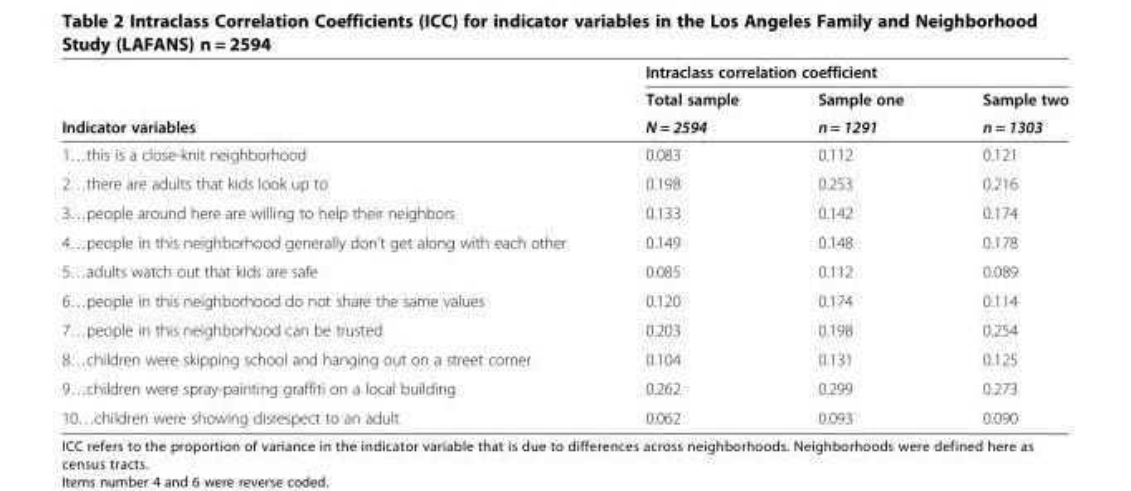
<table><thead><tr><td rowspan="3">Indicator variables</td><td colspan="3">Intraclass correlation coefficient</td></tr><tr><td rowspan="2">Total sample N = 2594</td><td rowspan="2">Sample one n = 1291</td><td rowspan="2">Sample two n = 1303</td></tr><tr></tr></thead><tbody><tr><td>1…this is a close-knit neighborhood</td><td>0.083</td><td>0.112</td><td>0.121</td></tr><tr><td>2…there are adults that kids look up to</td><td>0.198</td><td>0.253</td><td>0.216</td></tr><tr><td>3…people around here are willing to help their neighbors</td><td>0.133</td><td>0.142</td><td>0.174</td></tr><tr><td>4…people in this neighborhood generally don’t get along with each other</td><td>0.149</td><td>0.148</td><td>0.178</td></tr><tr><td>5…adults watch out that kids are safe</td><td>0.085</td><td>0.112</td><td>0.089</td></tr><tr><td>6…people in this neighborhood do not share the same values</td><td>0.120</td><td>0.174</td><td>0.114</td></tr><tr><td>7…people in this neighborhood can be trusted</td><td>0.203</td><td>0.198</td><td>0.254</td></tr><tr><td>8…children were skipping school and hanging out on a street corner</td><td>0.104</td><td>0.131</td><td>0.125</td></tr><tr><td>9…children were spray-painting graffiti on a local building</td><td>0.262</td><td>0.299</td><td>0.273</td></tr><tr><td>10…children were showing disrespect to an adult</td><td>0.062</td><td>0.093</td><td>0.090</td></tr></tbody></table>